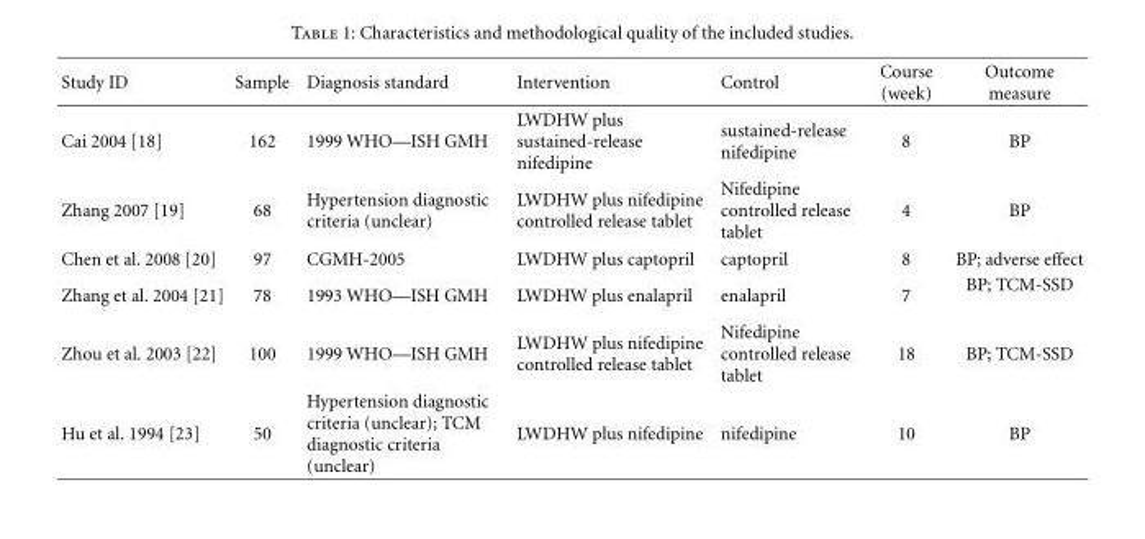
<table><thead><tr><td>Study ID</td><td>Sample</td><td>Diagnosis standard</td><td>Intervention</td><td>Control</td><td>Course (week)</td><td>Outcome measure</td></tr></thead><tbody><tr><td>Cai 2004 [18]</td><td>162</td><td>1999 WHO—ISH GMH</td><td>LWDHW plus sustained-release nifedipine</td><td>sustained-release nifedipine</td><td>8</td><td>BP</td></tr><tr><td>Zhang 2007 [19]</td><td>68</td><td>Hypertension diagnostic criteria (unclear)</td><td>LWDHW plus nifedipine controlled release tablet</td><td>Nifedipine controlled release tablet</td><td>4</td><td>BP</td></tr><tr><td>Chen et al. 2008 [20]</td><td>97</td><td>CGMH-2005</td><td>LWDHW plus captopril</td><td>captopril</td><td>8</td><td>BP; adverse effect</td></tr><tr><td>Zhang et al. 2004 [21]</td><td>78</td><td>1993 WHO—ISH GMH</td><td>LWDHW plus enalapril</td><td>enalapril</td><td>7</td><td>BP; TCM-SSD</td></tr><tr><td>Zhou et al. 2003 [22]</td><td>100</td><td>1999 WHO—ISH GMH</td><td>LWDHW plus nifedipine controlled release tablet</td><td>Nifedipine controlled release tablet</td><td>18</td><td>BP; TCM-SSD</td></tr><tr><td>Hu et al. 1994 [23]</td><td>50</td><td>Hypertension diagnostic criteria (unclear); TCM diagnostic criteria (unclear)</td><td>LWDHW plus nifedipine</td><td>nifedipine</td><td>10</td><td>BP</td></tr></tbody></table>